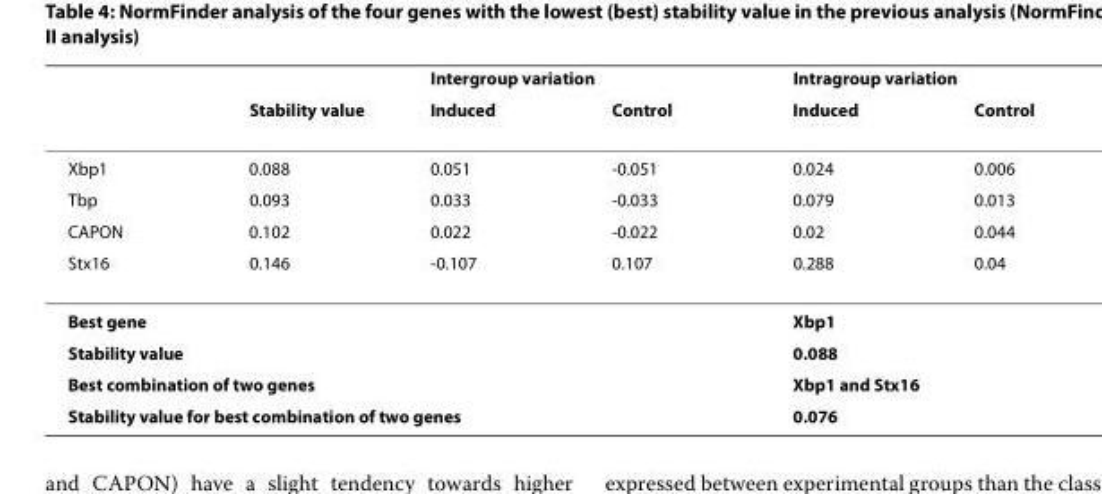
<table><thead><tr><td rowspan="2"></td><td rowspan="2">Stability value</td><td colspan="2">Intergroup variation</td><td colspan="2">Intragroup variation</td></tr><tr><td>Induced</td><td>Control</td><td>Induced</td><td>Control</td></tr></thead><tbody><tr><td>Xbp1</td><td>0.088</td><td>0.051</td><td>-0.051</td><td>0.024</td><td>0.006</td></tr><tr><td>Tbp</td><td>0.093</td><td>0.033</td><td>-0.033</td><td>0.079</td><td>0.013</td></tr><tr><td>CAPON</td><td>0.102</td><td>0.022</td><td>-0.022</td><td>0.02</td><td>0.044</td></tr><tr><td>Stx16</td><td>0.146</td><td>-0.107</td><td>0.107</td><td>0.288</td><td>0.04</td></tr><tr><td colspan="4">Best gene</td><td colspan="2">Xbp1</td></tr><tr><td colspan="4">Stability value</td><td colspan="2">0.088</td></tr><tr><td colspan="4">Best combination of two genes</td><td colspan="2">Xbp1 and Stx16</td></tr><tr><td colspan="4">Stability value for best combination of two genes</td><td colspan="2">0.076</td></tr></tbody></table>